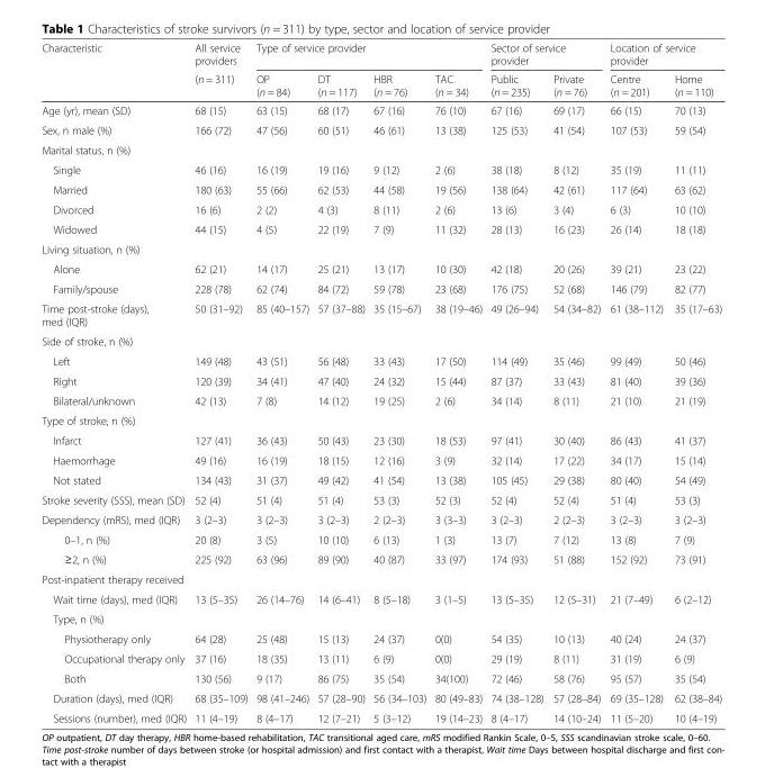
<table><thead><tr><td rowspan="2">Characteristic</td><td rowspan="2">All service providers (n = 311)</td><td colspan="4">Type of service provider</td><td colspan="2">Sector of service provider</td><td colspan="2">Location of service provider</td></tr><tr><td>OP (n = 84)</td><td>DT (n = 117)</td><td>HBR (n = 76)</td><td>TAC (n = 34)</td><td>Public (n = 235)</td><td>Private (n = 76)</td><td>Centre (n = 201)</td><td>Home (n = 110)</td></tr></thead><tbody><tr><td>Age (yr), mean (SD)</td><td>68 (15)</td><td>63 (15)</td><td>68 (17)</td><td>67 (16)</td><td>76 (10)</td><td>67 (16)</td><td>69 (17)</td><td>66 (15)</td><td>70 (13)</td></tr><tr><td>Sex, n male (%)</td><td>166 (72)</td><td>47 (56)</td><td>60 (51)</td><td>46 (61)</td><td>13 (38)</td><td>125 (53)</td><td>41 (54)</td><td>107 (53)</td><td>59 (54)</td></tr><tr><td colspan="10">Marital status, n (%)</td></tr><tr><td>Single</td><td>46 (16)</td><td>16 (19)</td><td>19 (16)</td><td>9 (12)</td><td>2 (6)</td><td>38 (18)</td><td>8 (12)</td><td>35 (19)</td><td>11 (11)</td></tr><tr><td>Married</td><td>180 (63)</td><td>55 (66)</td><td>62 (53)</td><td>44 (58)</td><td>19 (56)</td><td>138 (64)</td><td>42 (61)</td><td>117 (64)</td><td>63 (62)</td></tr><tr><td>Divorced</td><td>16 (6)</td><td>2 (2)</td><td>4 (3)</td><td>8 (11)</td><td>2 (6)</td><td>13 (6)</td><td>3 (4)</td><td>6 (3)</td><td>10 (10)</td></tr><tr><td>Widowed</td><td>44 (15)</td><td>4 (5)</td><td>22 (19)</td><td>7 (9)</td><td>11 (32)</td><td>28 (13)</td><td>16 (23)</td><td>26 (14)</td><td>18 (18)</td></tr><tr><td colspan="10">Living situation, n (%)</td></tr><tr><td>Alone</td><td>62 (21)</td><td>14 (17)</td><td>25 (21)</td><td>13 (17)</td><td>10 (30)</td><td>42 (18)</td><td>20 (26)</td><td>39 (21)</td><td>23 (22)</td></tr><tr><td>Family/spouse</td><td>228 (78)</td><td>62 (74)</td><td>84 (72)</td><td>59 (78)</td><td>23 (68)</td><td>176 (75)</td><td>52 (68)</td><td>146 (79)</td><td>82 (77)</td></tr><tr><td>Time post-stroke (days), med (IQR)</td><td>50 (31–92)</td><td>85 (40–157)</td><td>57 (37–88)</td><td>35 (15–67)</td><td>38 (19–46)</td><td>49 (26–94)</td><td>54 (34–82)</td><td>61 (38–112)</td><td>35 (17–63)</td></tr><tr><td colspan="10">Side of stroke, n (%)</td></tr><tr><td>Left</td><td>149 (48)</td><td>43 (51)</td><td>56 (48)</td><td>33 (43)</td><td>17 (50)</td><td>114 (49)</td><td>35 (46)</td><td>99 (49)</td><td>50 (46)</td></tr><tr><td>Right</td><td>120 (39)</td><td>34 (41)</td><td>47 (40)</td><td>24 (32)</td><td>15 (44)</td><td>87 (37)</td><td>33 (43)</td><td>81 (40)</td><td>39 (36)</td></tr><tr><td>Bilateral/unknown</td><td>42 (13)</td><td>7 (8)</td><td>14 (12)</td><td>19 (25)</td><td>2 (6)</td><td>34 (14)</td><td>8 (11)</td><td>21 (10)</td><td>21 (19)</td></tr><tr><td colspan="10">Type of stroke, n (%)</td></tr><tr><td>Infarct</td><td>127 (41)</td><td>36 (43)</td><td>50 (43)</td><td>23 (30)</td><td>18 (53)</td><td>97 (41)</td><td>30 (40)</td><td>86 (43)</td><td>41 (37)</td></tr><tr><td>Haemorrhage</td><td>49 (16)</td><td>16 (19)</td><td>18 (15)</td><td>12 (16)</td><td>3 (9)</td><td>32 (14)</td><td>17 (22)</td><td>34 (17)</td><td>15 (14)</td></tr><tr><td>Not stated</td><td>134 (43)</td><td>31 (37)</td><td>49 (42)</td><td>41 (54)</td><td>13 (38)</td><td>105 (45)</td><td>29 (38)</td><td>80 (40)</td><td>54 (49)</td></tr><tr><td>Stroke severity (SSS), mean (SD)</td><td>52 (4)</td><td>51 (4)</td><td>51 (4)</td><td>53 (3)</td><td>52 (3)</td><td>52 (4)</td><td>52 (4)</td><td>51 (4)</td><td>53 (3)</td></tr><tr><td>Dependency (mRS), med (IQR)</td><td>3 (2–3)</td><td>3 (2–3)</td><td>3 (2–3)</td><td>2 (2–3)</td><td>3 (3–3)</td><td>3 (2–3)</td><td>2 (2–3)</td><td>3 (2–3)</td><td>3 (2–3)</td></tr><tr><td>0–1, n (%)</td><td>20 (8)</td><td>3 (5)</td><td>10 (10)</td><td>6 (13)</td><td>1 (3)</td><td>13 (7)</td><td>7 (12)</td><td>13 (8)</td><td>7 (9)</td></tr><tr><td>≥2, n (%)</td><td>225 (92)</td><td>63 (96)</td><td>89 (90)</td><td>40 (87)</td><td>33 (97)</td><td>174 (93)</td><td>51 (88)</td><td>152 (92)</td><td>73 (91)</td></tr><tr><td colspan="10">Post-inpatient therapy received</td></tr><tr><td>Wait time (days), med (IQR)</td><td>13 (5–35)</td><td>26 (14–76)</td><td>14 (6–41)</td><td>8 (5–18)</td><td>3 (1–5)</td><td>13 (5–35)</td><td>12 (5–31)</td><td>21 (7–49)</td><td>6 (2–12)</td></tr><tr><td colspan="10">Type, n (%)</td></tr><tr><td>Physiotherapy only</td><td>64 (28)</td><td>25 (48)</td><td>15 (13)</td><td>24 (37)</td><td>0(0)</td><td>54 (35)</td><td>10 (13)</td><td>40 (24)</td><td>24 (37)</td></tr><tr><td>Occupational therapy only</td><td>37 (16)</td><td>18 (35)</td><td>13 (11)</td><td>6 (9)</td><td>0(0)</td><td>29 (19)</td><td>8 (11)</td><td>31 (19)</td><td>6 (9)</td></tr><tr><td>Both</td><td>130 (56)</td><td>9 (17)</td><td>86 (75)</td><td>35 (54)</td><td>34(100)</td><td>72 (46)</td><td>58 (76)</td><td>95 (57)</td><td>35 (54)</td></tr><tr><td>Duration (days), med (IQR)</td><td>68 (35–109)</td><td>98 (41–246)</td><td>57 (28–90)</td><td>56 (34–103)</td><td>80 (49–83)</td><td>74 (38–128)</td><td>57 (28–84)</td><td>69 (35–128)</td><td>62 (38–84)</td></tr><tr><td>Sessions (number), med (IQR)</td><td>11 (4–19)</td><td>8 (4–17)</td><td>12 (7–21)</td><td>5 (3–12)</td><td>19 (14–23)</td><td>8 (4–17)</td><td>14 (10–24)</td><td>11 (5–20)</td><td>10 (4–19)</td></tr></tbody></table>